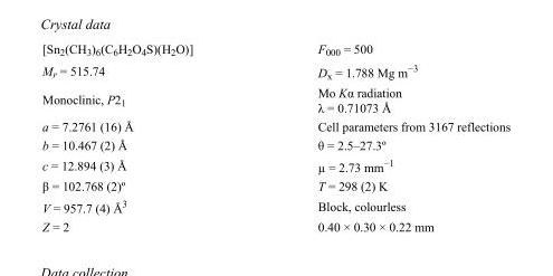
<table><tbody><tr><td>[Sn<sub>2</sub>(CH<sub>3</sub>)<sub>6</sub>(C<sub>6</sub>H<sub>2</sub>O<sub>4</sub>S)(H<sub>2</sub>O)]</td><td>F000 = 500</td></tr><tr><td>M<sub>r</sub> = 515.74</td><td>D<sub>x</sub> = 1.788 Mg m<sup>−3</sup></td></tr><tr><td>Monoclinic, P2<sub>1</sub></td><td>Mo Kα radiation λ = 0.71073 Å</td></tr><tr><td>a = 7.2761 (16) Å</td><td>Cell parameters from 3167 reflections</td></tr><tr><td>b = 10.467 (2) Å</td><td>θ = 2.5–27.3º</td></tr><tr><td>c = 12.894 (3) Å</td><td>µ = 2.73 mm<sup>−1</sup></td></tr><tr><td>β = 102.768 (2)º</td><td>T = 298 (2) K</td></tr><tr><td>V = 957.7 (4) Å<sup>3</sup></td><td>Block, colourless</td></tr><tr><td>Z = 2</td><td>0.40 × 0.30 × 0.22 mm</td></tr></tbody></table>